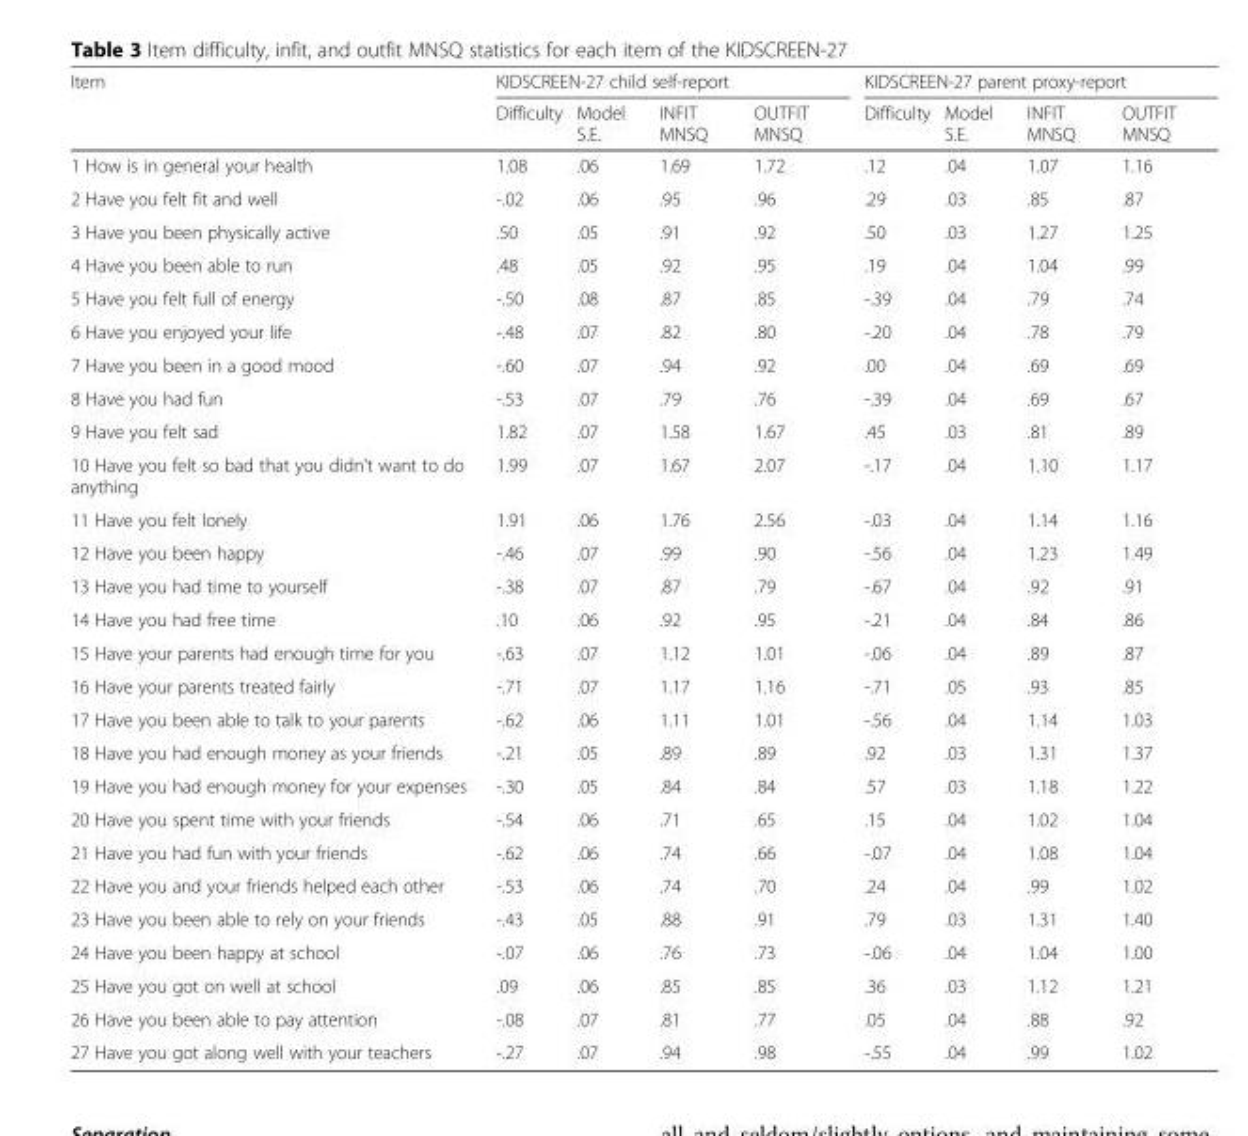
<table><thead><tr><td rowspan="2">Item</td><td colspan="4">KIDSCREEN-27 child self-report</td><td colspan="4">KIDSCREEN-27 parent proxy-report</td></tr><tr><td>Difficulty</td><td>Model S.E.</td><td>INFIT MNSQ</td><td>OUTFIT MNSQ</td><td>Difficulty</td><td>Model S.E.</td><td>INFIT MNSQ</td><td>OUTFIT MNSQ</td></tr></thead><tbody><tr><td>1 How is in general your health</td><td>1.08</td><td>.06</td><td>1.69</td><td>1.72</td><td>.12</td><td>.04</td><td>1.07</td><td>1.16</td></tr><tr><td>2 Have you felt fit and well</td><td>-.02</td><td>.06</td><td>.95</td><td>.96</td><td>.29</td><td>.03</td><td>.85</td><td>.87</td></tr><tr><td>3 Have you been physically active</td><td>.50</td><td>.05</td><td>.91</td><td>.92</td><td>.50</td><td>.03</td><td>1.27</td><td>1.25</td></tr><tr><td>4 Have you been able to run</td><td>.48</td><td>.05</td><td>.92</td><td>.95</td><td>.19</td><td>.04</td><td>1.04</td><td>.99</td></tr><tr><td>5 Have you felt full of energy</td><td>-.50</td><td>.08</td><td>.87</td><td>.85</td><td>-.39</td><td>.04</td><td>.79</td><td>.74</td></tr><tr><td>6 Have you enjoyed your life</td><td>-.48</td><td>.07</td><td>.82</td><td>.80</td><td>-.20</td><td>.04</td><td>.78</td><td>.79</td></tr><tr><td>7 Have you been in a good mood</td><td>-.60</td><td>.07</td><td>.94</td><td>.92</td><td>.00</td><td>.04</td><td>.69</td><td>.69</td></tr><tr><td>8 Have you had fun</td><td>-.53</td><td>.07</td><td>.79</td><td>.76</td><td>-.39</td><td>.04</td><td>.69</td><td>.67</td></tr><tr><td>9 Have you felt sad</td><td>1.82</td><td>.07</td><td>1.58</td><td>1.67</td><td>.45</td><td>.03</td><td>.81</td><td>.89</td></tr><tr><td>10 Have you felt so bad that you didn&#x27;t want to do anything</td><td>1.99</td><td>.07</td><td>1.67</td><td>2.07</td><td>-.17</td><td>.04</td><td>1.10</td><td>1.17</td></tr><tr><td>11 Have you felt lonely</td><td>1.91</td><td>.06</td><td>1.76</td><td>2.56</td><td>-.03</td><td>.04</td><td>1.14</td><td>1.16</td></tr><tr><td>12 Have you been happy</td><td>-.46</td><td>.07</td><td>.99</td><td>.90</td><td>-.56</td><td>.04</td><td>1.23</td><td>1.49</td></tr><tr><td>13 Have you had time to yourself</td><td>-.38</td><td>.07</td><td>.87</td><td>.79</td><td>-.67</td><td>.04</td><td>.92</td><td>.91</td></tr><tr><td>14 Have you had free time</td><td>.10</td><td>.06</td><td>.92</td><td>.95</td><td>-.21</td><td>.04</td><td>.84</td><td>.86</td></tr><tr><td>15 Have your parents had enough time for you</td><td>-.63</td><td>.07</td><td>1.12</td><td>1.01</td><td>-.06</td><td>.04</td><td>.89</td><td>.87</td></tr><tr><td>16 Have your parents treated fairly</td><td>-.71</td><td>.07</td><td>1.17</td><td>1.16</td><td>-.71</td><td>.05</td><td>.93</td><td>.85</td></tr><tr><td>17 Have you been able to talk to your parents</td><td>-.62</td><td>.06</td><td>1.11</td><td>1.01</td><td>-.56</td><td>.04</td><td>1.14</td><td>1.03</td></tr><tr><td>18 Have you had enough money as your friends</td><td>-.21</td><td>.05</td><td>.89</td><td>.89</td><td>.92</td><td>.03</td><td>1.31</td><td>1.37</td></tr><tr><td>19 Have you had enough money for your expenses</td><td>-.30</td><td>.05</td><td>.84</td><td>.84</td><td>.57</td><td>.03</td><td>1.18</td><td>1.22</td></tr><tr><td>20 Have you spent time with your friends</td><td>-.54</td><td>.06</td><td>.71</td><td>.65</td><td>.15</td><td>.04</td><td>1.02</td><td>1.04</td></tr><tr><td>21 Have you had fun with your friends</td><td>-.62</td><td>.06</td><td>.74</td><td>.66</td><td>-.07</td><td>.04</td><td>1.08</td><td>1.04</td></tr><tr><td>22 Have you and your friends helped each other</td><td>-.53</td><td>.06</td><td>.74</td><td>.70</td><td>.24</td><td>.04</td><td>.99</td><td>1.02</td></tr><tr><td>23 Have you been able to rely on your friends</td><td>-.43</td><td>.05</td><td>.88</td><td>.91</td><td>.79</td><td>.03</td><td>1.31</td><td>1.40</td></tr><tr><td>24 Have you been happy at school</td><td>-.07</td><td>.06</td><td>.76</td><td>.73</td><td>-.06</td><td>.04</td><td>1.04</td><td>1.00</td></tr><tr><td>25 Have you got on well at school</td><td>.09</td><td>.06</td><td>.85</td><td>.85</td><td>.36</td><td>.03</td><td>1.12</td><td>1.21</td></tr><tr><td>26 Have you been able to pay attention</td><td>-.08</td><td>.07</td><td>.81</td><td>.77</td><td>.05</td><td>.04</td><td>.88</td><td>.92</td></tr><tr><td>27 Have you got along well with your teachers</td><td>-.27</td><td>.07</td><td>.94</td><td>.98</td><td>-.55</td><td>.04</td><td>.99</td><td>1.02</td></tr></tbody></table>